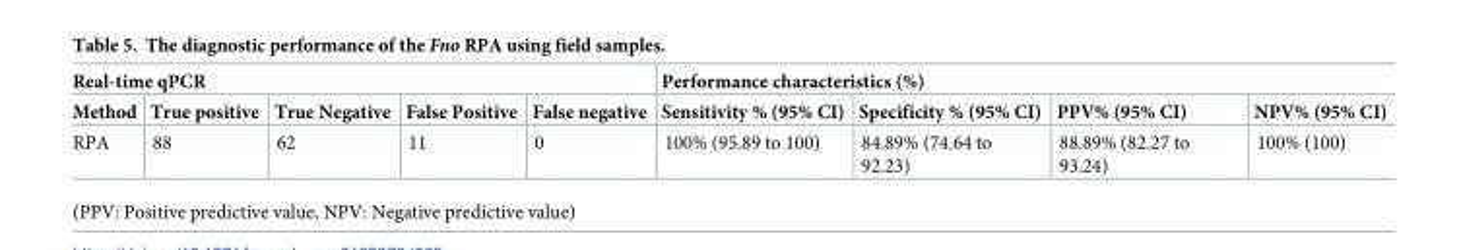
<table><thead><tr><td colspan="5">Real-time qPCR</td><td colspan="4">Performance characteristics (%)</td></tr><tr><td>Method</td><td>True positive</td><td>True Negative</td><td>False Positive</td><td>False negative</td><td>Sensitivity % (95% CI)</td><td>Specificity % (95% CI)</td><td>PPV% (95% CI)</td><td>NPV% (95% CI)</td></tr></thead><tbody><tr><td>RPA</td><td>88</td><td>62</td><td>11</td><td>0</td><td>100% (95.89 to 100)</td><td>84.89% (74.64 to 92.23)</td><td>88.89% (82.27 to 93.24)</td><td>100% (100)</td></tr></tbody></table>